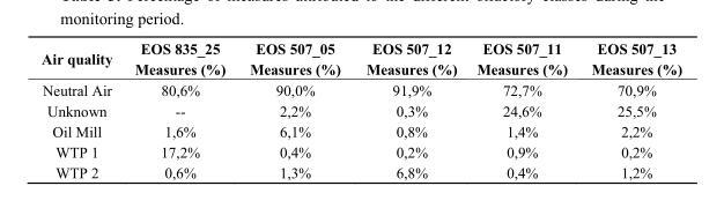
<table><thead><tr><td>Air quality</td><td>EOS 835_25 Measures (%)</td><td>EOS 507_05 Measures (%)</td><td>EOS 507_12 Measures (%)</td><td>EOS 507_11 Measures (%)</td><td>EOS 507_13 Measures (%)</td></tr></thead><tbody><tr><td>Neutral Air</td><td>80,6%</td><td>90,0%</td><td>91,9%</td><td>72,7%</td><td>70,9%</td></tr><tr><td>Unknown</td><td>--</td><td>2,2%</td><td>0,3%</td><td>24,6%</td><td>25,5%</td></tr><tr><td>Oil Mill</td><td>1,6%</td><td>6,1%</td><td>0,8%</td><td>1,4%</td><td>2,2%</td></tr><tr><td>WTP 1</td><td>17,2%</td><td>0,4%</td><td>0,2%</td><td>0,9%</td><td>0,2%</td></tr><tr><td>WTP 2</td><td>0,6%</td><td>1,3%</td><td>6,8%</td><td>0,4%</td><td>1,2%</td></tr></tbody></table>